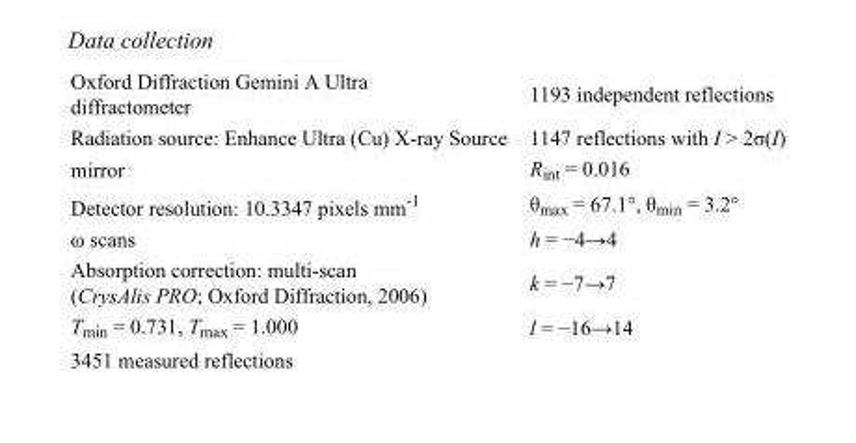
<table><tbody><tr><td>Oxford Diffraction Gemini A Ultra diffractometer</td><td>1193 independent reflections</td></tr><tr><td>Radiation source: Enhance Ultra (Cu) X-ray Source</td><td>1147 reflections with I &gt; 2σ(I)</td></tr><tr><td>mirror</td><td>R<sub>int</sub> = 0.016</td></tr><tr><td>Detector resolution: 10.3347 pixels mm<sup>-1</sup></td><td>θ<sub>max</sub> = 67.1°, θ<sub>min</sub> = 3.2°</td></tr><tr><td>ω scans</td><td>h = −4→4</td></tr><tr><td>Absorption correction: multi-scan (CrysAlis PRO; Oxford Diffraction, 2006)</td><td>k = −7→7</td></tr><tr><td>T<sub>min</sub> = 0.731, T<sub>max</sub> = 1.000</td><td>l = −16→14</td></tr><tr><td>3451 measured reflections</td><td></td></tr></tbody></table>